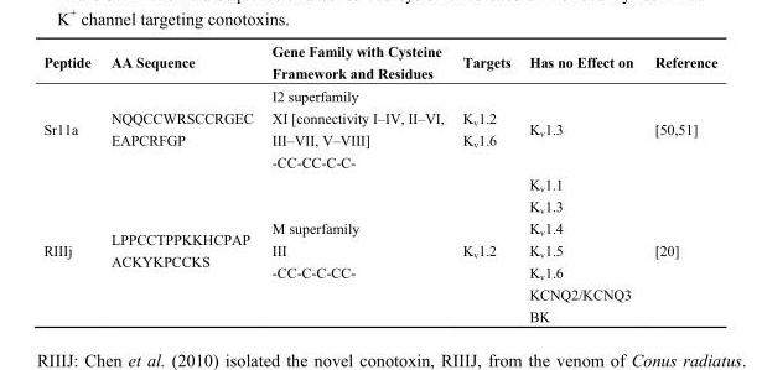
<table><thead><tr><td>Peptide</td><td>AA Sequence</td><td>Gene Family with Cysteine Framework and Residues</td><td>Targets</td><td>Has no Effect on</td><td>Reference</td></tr></thead><tbody><tr><td>Sr11a</td><td>NQQCCWRSCCRGEC EAPCRFGP</td><td>I2 superfamily XI [connectivity I–IV, II–VI, III–VII, V–VIII] -CC-CC-C-C-</td><td>K<sub>v</sub>1.2 K<sub>v</sub>1.6</td><td>K<sub>v</sub>1.3</td><td>[50,51]</td></tr><tr><td>RIIIj</td><td>LPPCCTPPKKHCPAP ACKYKPCCKS</td><td>M superfamily III -CC-C-C-CC-</td><td>K<sub>v</sub>1.2</td><td>K<sub>v</sub>1.1 K<sub>v</sub>1.3 K<sub>v</sub>1.4 K<sub>v</sub>1.5 K<sub>v</sub>1.6 KCNQ2/KCNQ3 BK</td><td>[20]</td></tr></tbody></table>